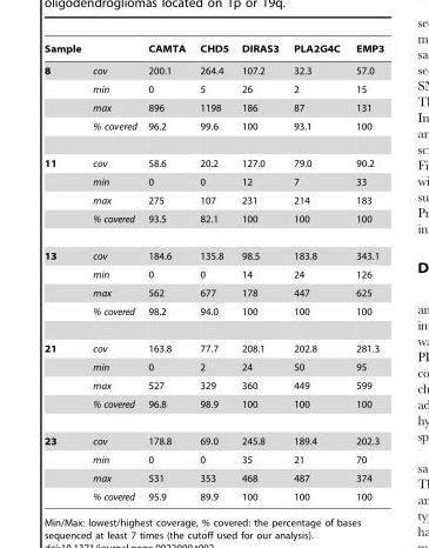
<table><thead><tr><td>Sample</td><td></td><td>CAMTA</td><td>CHD5</td><td>DIRAS3</td><td>PLA2G4C</td><td>EMP3</td></tr></thead><tbody><tr><td rowspan="4">8</td><td>cov</td><td>200.1</td><td>264.4</td><td>107.2</td><td>32.3</td><td>57.0</td></tr><tr><td>min</td><td>0</td><td>5</td><td>26</td><td>2</td><td>15</td></tr><tr><td>max</td><td>896</td><td>1198</td><td>186</td><td>87</td><td>131</td></tr><tr><td>% covered</td><td>96.2</td><td>99.6</td><td>100</td><td>93.1</td><td>100</td></tr><tr><td rowspan="4">11</td><td>cov</td><td>58.6</td><td>20.2</td><td>127.0</td><td>79.0</td><td>90.2</td></tr><tr><td>min</td><td>0</td><td>0</td><td>12</td><td>7</td><td>33</td></tr><tr><td>max</td><td>275</td><td>107</td><td>231</td><td>214</td><td>183</td></tr><tr><td>% covered</td><td>93.5</td><td>82.1</td><td>100</td><td>100</td><td>100</td></tr><tr><td rowspan="4">13</td><td>cov</td><td>184.6</td><td>135.8</td><td>98.5</td><td>183.8</td><td>343.1</td></tr><tr><td>min</td><td>0</td><td>0</td><td>14</td><td>24</td><td>126</td></tr><tr><td>max</td><td>562</td><td>677</td><td>178</td><td>447</td><td>625</td></tr><tr><td>% covered</td><td>98.2</td><td>94.0</td><td>100</td><td>100</td><td>100</td></tr><tr><td rowspan="4">21</td><td>cov</td><td>163.8</td><td>77.7</td><td>208.1</td><td>202.8</td><td>281.3</td></tr><tr><td>min</td><td>0</td><td>2</td><td>24</td><td>50</td><td>95</td></tr><tr><td>max</td><td>527</td><td>329</td><td>360</td><td>449</td><td>599</td></tr><tr><td>% covered</td><td>96.8</td><td>98.9</td><td>100</td><td>100</td><td>100</td></tr><tr><td rowspan="4">23</td><td>cov</td><td>178.8</td><td>69.0</td><td>245.8</td><td>189.4</td><td>202.3</td></tr><tr><td>min</td><td>0</td><td>0</td><td>35</td><td>21</td><td>70</td></tr><tr><td>max</td><td>531</td><td>353</td><td>468</td><td>487</td><td>374</td></tr><tr><td>% covered</td><td>95.9</td><td>89.9</td><td>100</td><td>100</td><td>100</td></tr></tbody></table>